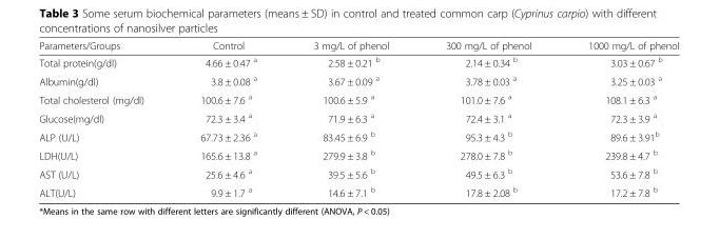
<table><thead><tr><td>Parameters/Groups</td><td>Control</td><td>3 mg/L of phenol</td><td>300 mg/L of phenol</td><td>1000 mg/L of phenol</td></tr></thead><tbody><tr><td>Total protein(g/dl)</td><td>4.66 ± 0.47 a</td><td>2.58 ± 0.21 b</td><td>2.14 ± 0.34 b</td><td>3.03 ± 0.67 b</td></tr><tr><td>Albumin(g/dl)</td><td>3.8 ± 0.08 a</td><td>3.67 ± 0.09 a</td><td>3.78 ± 0.03 a</td><td>3.25 ± 0.03 a</td></tr><tr><td>Total cholesterol (mg/dl)</td><td>100.6 ± 7.6 a</td><td>100.6 ± 5.9 a</td><td>101.0 ± 7.6 a</td><td>108.1 ± 6.3 a</td></tr><tr><td>Glucose(mg/dl)</td><td>72.3 ± 3.4 a</td><td>71.9 ± 6.3 a</td><td>72.4 ± 3.1 a</td><td>72.3 ± 3.9 a</td></tr><tr><td>ALP (U/L)</td><td>67.73 ± 2.36 a</td><td>83.45 ± 6.9 b</td><td>95.3 ± 4.3 b</td><td>89.6 ± 3.91b</td></tr><tr><td>LDH(U/L)</td><td>165.6 ± 13.8 a</td><td>279.9 ± 3.8 b</td><td>278.0 ± 7.8 b</td><td>239.8 ± 4.7 b</td></tr><tr><td>AST (U/L)</td><td>25.6 ± 4.6 a</td><td>39.5 ± 5.6 b</td><td>49.5 ± 6.3 b</td><td>53.6 ± 7.8 b</td></tr><tr><td>ALT(U/L)</td><td>9.9 ± 1.7 a</td><td>14.6 ± 7.1 b</td><td>17.8 ± 2.08 b</td><td>17.2 ± 7.8 b</td></tr></tbody></table>